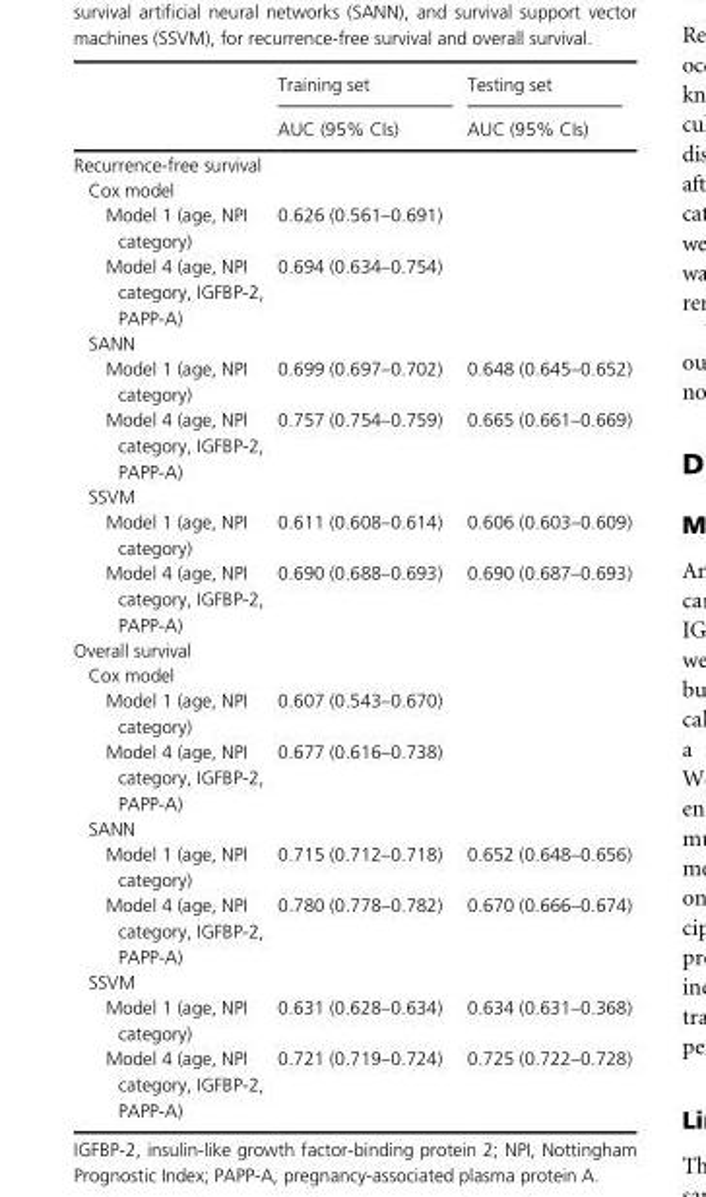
<table><thead><tr><td rowspan="2"></td><td rowspan="2">Training set AUC (95% CIs)</td><td rowspan="2">Testing set AUC (95% CIs)</td></tr><tr></tr></thead><tbody><tr><td colspan="3">Recurrence- free survival</td></tr><tr><td colspan="3">Cox model</td></tr><tr><td>Model 1 (age, NPI category)</td><td colspan="2">0.626 (0.561–0.691)</td></tr><tr><td>Model 4 (age, NPI category, IGFBP- 2, PAPP- A)</td><td colspan="2">0.694 (0.634–0.754)</td></tr><tr><td colspan="3">SANN</td></tr><tr><td>Model 1 (age, NPI category)</td><td>0.699 (0.697–0.702)</td><td>0.648 (0.645–0.652)</td></tr><tr><td>Model 4 (age, NPI category, IGFBP- 2, PAPP- A)</td><td>0.757 (0.754–0.759)</td><td>0.665 (0.661–0.669)</td></tr><tr><td colspan="3">SSVM</td></tr><tr><td>Model 1 (age, NPI category)</td><td>0.611 (0.608–0.614)</td><td>0.606 (0.603–0.609)</td></tr><tr><td>Model 4 (age, NPI category, IGFBP- 2, PAPP- A)</td><td>0.690 (0.688–0.693)</td><td>0.690 (0.687–0.693)</td></tr><tr><td colspan="3">Overall survival</td></tr><tr><td colspan="3">Cox model</td></tr><tr><td>Model 1 (age, NPI category)</td><td colspan="2">0.607 (0.543–0.670)</td></tr><tr><td>Model 4 (age, NPI category, IGFBP- 2, PAPP- A)</td><td colspan="2">0.677 (0.616–0.738)</td></tr><tr><td colspan="3">SANN</td></tr><tr><td>Model 1 (age, NPI category)</td><td>0.715 (0.712–0.718)</td><td>0.652 (0.648–0.656)</td></tr><tr><td>Model 4 (age, NPI category, IGFBP- 2, PAPP- A)</td><td>0.780 (0.778–0.782)</td><td>0.670 (0.666–0.674)</td></tr><tr><td colspan="3">SSVM</td></tr><tr><td>Model 1 (age, NPI category)</td><td>0.631 (0.628–0.634)</td><td>0.634 (0.631–0.368)</td></tr><tr><td>Model 4 (age, NPI category, IGFBP- 2, PAPP- A)</td><td>0.721 (0.719–0.724)</td><td>0.725 (0.722–0.728)</td></tr></tbody></table>